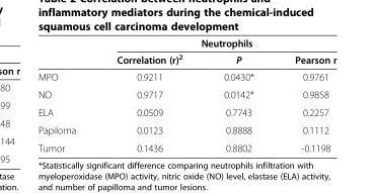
<table><thead><tr><td rowspan="2"></td><td colspan="3">Neutrophils</td></tr><tr><td>Correlation (r)<sup>2</sup></td><td>P</td><td>Pearson r</td></tr></thead><tbody><tr><td>MPO</td><td>0.9211</td><td>0.0430*</td><td>0.9761</td></tr><tr><td>NO</td><td>0.9717</td><td>0.0142*</td><td>0.9858</td></tr><tr><td>ELA</td><td>0.0509</td><td>0.7743</td><td>0.2257</td></tr><tr><td>Papiloma</td><td>0.0123</td><td>0.8888</td><td>0.1112</td></tr><tr><td>Tumor</td><td>0.1436</td><td>0.8802</td><td>-0.1198</td></tr></tbody></table>